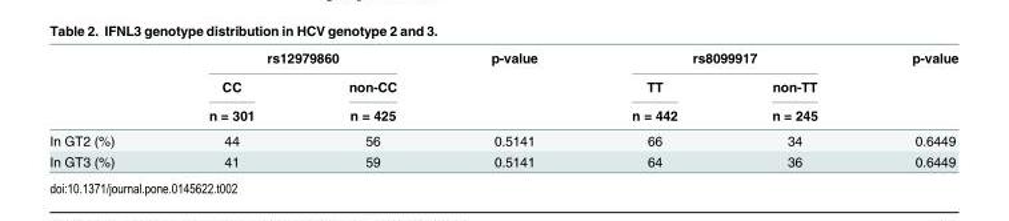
<table><thead><tr><td rowspan="3"></td><td colspan="2">rs12979860</td><td rowspan="3">p-value</td><td colspan="2">rs8099917</td><td rowspan="3">p-value</td></tr><tr><td rowspan="2">CC n = 301</td><td rowspan="2">non-CC n = 425</td><td rowspan="2">TT n = 442</td><td rowspan="2">non-TT n = 245</td></tr><tr></tr></thead><tbody><tr><td>In GT2 (%)</td><td>44</td><td>56</td><td>0.5141</td><td>66</td><td>34</td><td>0.6449</td></tr><tr><td>In GT3 (%)</td><td>41</td><td>59</td><td>0.5141</td><td>64</td><td>36</td><td>0.6449</td></tr></tbody></table>